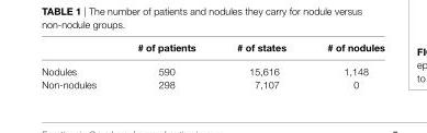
<table><thead><tr><td></td><td># of patients</td><td># of states</td><td># of nodules</td></tr></thead><tbody><tr><td>Nodules</td><td>590</td><td>15,616</td><td>1,148</td></tr><tr><td>Non-nodules</td><td>298</td><td>7,107</td><td>0</td></tr></tbody></table>